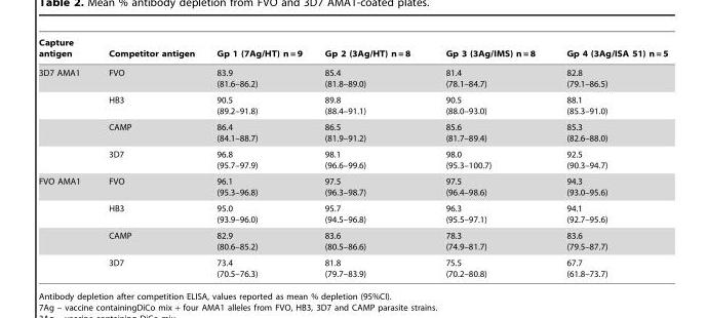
<table><thead><tr><td>Capture antigen</td><td>Competitor antigen</td><td>Gp 1 (7Ag/HT) n = 9</td><td>Gp 2 (3Ag/HT) n = 8</td><td>Gp 3 (3Ag/IMS) n = 8</td><td>Gp 4 (3Ag/ISA 51) n = 5</td></tr></thead><tbody><tr><td rowspan="4">3D7 AMA1</td><td>FVO</td><td>83.9 (81.6–86.2)</td><td>85.4 (81.8–89.0)</td><td>81.4 (78.1–84.7)</td><td>82.8 (79.1–86.5)</td></tr><tr><td>HB3</td><td>90.5 (89.2–91.8)</td><td>89.8 (88.4–91.1)</td><td>90.5 (88.0–93.0)</td><td>88.1 (85.3–91.0)</td></tr><tr><td>CAMP</td><td>86.4 (84.1–88.7)</td><td>86.5 (81.9–91.2)</td><td>85.6 (81.7–89.4)</td><td>85.3 (82.6–88.0)</td></tr><tr><td>3D7</td><td>96.8 (95.7–97.9)</td><td>98.1 (96.6–99.6)</td><td>98.0 (95.3–100.7)</td><td>92.5 (90.3–94.7)</td></tr><tr><td rowspan="4">FVO AMA1</td><td>FVO</td><td>96.1 (95.3–96.8)</td><td>97.5 (96.3–98.7)</td><td>97.5 (96.4–98.6)</td><td>94.3 (93.0–95.6)</td></tr><tr><td>HB3</td><td>95.0 (93.9–96.0)</td><td>95.7 (94.5–96.8)</td><td>96.3 (95.5–97.1)</td><td>94.1 (92.7–95.6)</td></tr><tr><td>CAMP</td><td>82.9 (80.6–85.2)</td><td>83.6 (80.5–86.6)</td><td>78.3 (74.9–81.7)</td><td>83.6 (79.5–87.7)</td></tr><tr><td>3D7</td><td>73.4 (70.5–76.3)</td><td>81.8 (79.7–83.9)</td><td>75.5 (70.2–80.8)</td><td>67.7 (61.8–73.7)</td></tr></tbody></table>